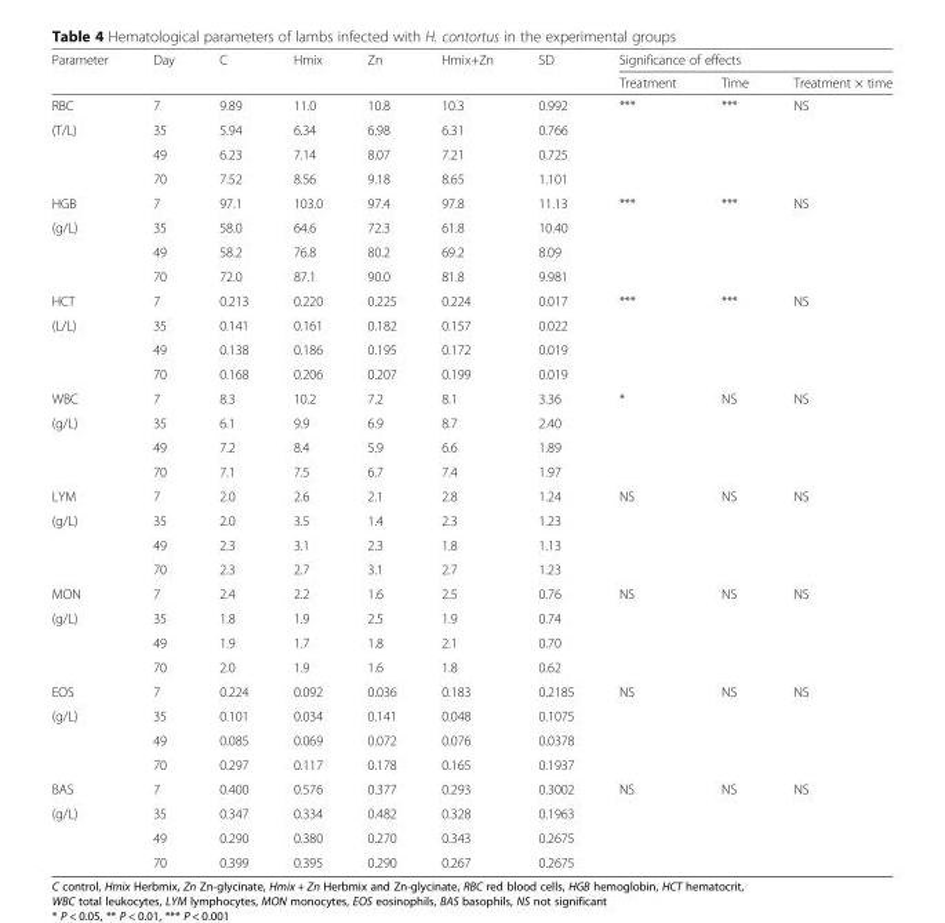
<table><thead><tr><td rowspan="2">Parameter</td><td rowspan="2">Day</td><td rowspan="2">C</td><td rowspan="2">Hmix</td><td rowspan="2">Zn</td><td rowspan="2">Hmix+Zn</td><td rowspan="2">SD</td><td colspan="3">Significance of effects</td></tr><tr><td>Treatment</td><td>Time</td><td>Treatment × time</td></tr></thead><tbody><tr><td>RBC</td><td>7</td><td>9.89</td><td>11.0</td><td>10.8</td><td>10.3</td><td>0.992</td><td rowspan="4">***</td><td rowspan="4">***</td><td rowspan="4">NS</td></tr><tr><td rowspan="3">(T/L)</td><td>35</td><td>5.94</td><td>6.34</td><td>6.98</td><td>6.31</td><td>0.766</td></tr><tr><td>49</td><td>6.23</td><td>7.14</td><td>8.07</td><td>7.21</td><td>0.725</td></tr><tr><td>70</td><td>7.52</td><td>8.56</td><td>9.18</td><td>8.65</td><td>1.101</td></tr><tr><td>HGB</td><td>7</td><td>97.1</td><td>103.0</td><td>97.4</td><td>97.8</td><td>11.13</td><td rowspan="4">***</td><td rowspan="4">***</td><td rowspan="4">NS</td></tr><tr><td rowspan="3">(g/L)</td><td>35</td><td>58.0</td><td>64.6</td><td>72.3</td><td>61.8</td><td>10.40</td></tr><tr><td>49</td><td>58.2</td><td>76.8</td><td>80.2</td><td>69.2</td><td>8.09</td></tr><tr><td>70</td><td>72.0</td><td>87.1</td><td>90.0</td><td>81.8</td><td>9.981</td></tr><tr><td>HCT</td><td>7</td><td>0.213</td><td>0.220</td><td>0.225</td><td>0.224</td><td>0.017</td><td rowspan="4">***</td><td rowspan="4">***</td><td rowspan="4">NS</td></tr><tr><td rowspan="3">(L/L)</td><td>35</td><td>0.141</td><td>0.161</td><td>0.182</td><td>0.157</td><td>0.022</td></tr><tr><td>49</td><td>0.138</td><td>0.186</td><td>0.195</td><td>0.172</td><td>0.019</td></tr><tr><td>70</td><td>0.168</td><td>0.206</td><td>0.207</td><td>0.199</td><td>0.019</td></tr><tr><td>WBC</td><td>7</td><td>8.3</td><td>10.2</td><td>7.2</td><td>8.1</td><td>3.36</td><td rowspan="4">*</td><td rowspan="4">NS</td><td rowspan="4">NS</td></tr><tr><td rowspan="3">(g/L)</td><td>35</td><td>6.1</td><td>9.9</td><td>6.9</td><td>8.7</td><td>2.40</td></tr><tr><td>49</td><td>7.2</td><td>8.4</td><td>5.9</td><td>6.6</td><td>1.89</td></tr><tr><td>70</td><td>7.1</td><td>7.5</td><td>6.7</td><td>7.4</td><td>1.97</td></tr><tr><td>LYM</td><td>7</td><td>2.0</td><td>2.6</td><td>2.1</td><td>2.8</td><td>1.24</td><td rowspan="4">NS</td><td rowspan="4">NS</td><td rowspan="4">NS</td></tr><tr><td rowspan="3">(g/L)</td><td>35</td><td>2.0</td><td>3.5</td><td>1.4</td><td>2.3</td><td>1.23</td></tr><tr><td>49</td><td>2.3</td><td>3.1</td><td>2.3</td><td>1.8</td><td>1.13</td></tr><tr><td>70</td><td>2.3</td><td>2.7</td><td>3.1</td><td>2.7</td><td>1.23</td></tr><tr><td>MON</td><td>7</td><td>2.4</td><td>2.2</td><td>1.6</td><td>2.5</td><td>0.76</td><td rowspan="4">NS</td><td rowspan="4">NS</td><td rowspan="4">NS</td></tr><tr><td rowspan="3">(g/L)</td><td>35</td><td>1.8</td><td>1.9</td><td>2.5</td><td>1.9</td><td>0.74</td></tr><tr><td>49</td><td>1.9</td><td>1.7</td><td>1.8</td><td>2.1</td><td>0.70</td></tr><tr><td>70</td><td>2.0</td><td>1.9</td><td>1.6</td><td>1.8</td><td>0.62</td></tr><tr><td>EOS</td><td>7</td><td>0.224</td><td>0.092</td><td>0.036</td><td>0.183</td><td>0.2185</td><td rowspan="4">NS</td><td rowspan="4">NS</td><td rowspan="4">NS</td></tr><tr><td rowspan="3">(g/L)</td><td>35</td><td>0.101</td><td>0.034</td><td>0.141</td><td>0.048</td><td>0.1075</td></tr><tr><td>49</td><td>0.085</td><td>0.069</td><td>0.072</td><td>0.076</td><td>0.0378</td></tr><tr><td>70</td><td>0.297</td><td>0.117</td><td>0.178</td><td>0.165</td><td>0.1937</td></tr><tr><td>BAS</td><td>7</td><td>0.400</td><td>0.576</td><td>0.377</td><td>0.293</td><td>0.3002</td><td rowspan="4">NS</td><td rowspan="4">NS</td><td rowspan="4">NS</td></tr><tr><td rowspan="3">(g/L)</td><td>35</td><td>0.347</td><td>0.334</td><td>0.482</td><td>0.328</td><td>0.1963</td></tr><tr><td>49</td><td>0.290</td><td>0.380</td><td>0.270</td><td>0.343</td><td>0.2675</td></tr><tr><td>70</td><td>0.399</td><td>0.395</td><td>0.290</td><td>0.267</td><td>0.2675</td></tr></tbody></table>